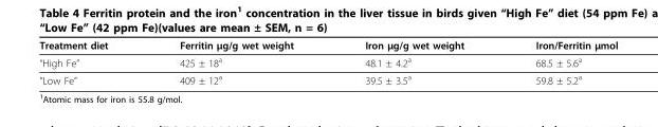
<table><thead><tr><td>Treatment diet</td><td>Ferritin μg/g wet weight</td><td>Iron μg/g wet weight</td><td>Iron/Ferritin μmol</td></tr></thead><tbody><tr><td>“High Fe”</td><td>425 ± 18<sup>a</sup></td><td>48.1 ± 4.2<sup>a</sup></td><td>68.5 ± 5.6<sup>a</sup></td></tr><tr><td>“Low Fe”</td><td>409 ± 12a</td><td>39.5 ± 3.5a</td><td>59.8 ± 5.2a</td></tr></tbody></table>